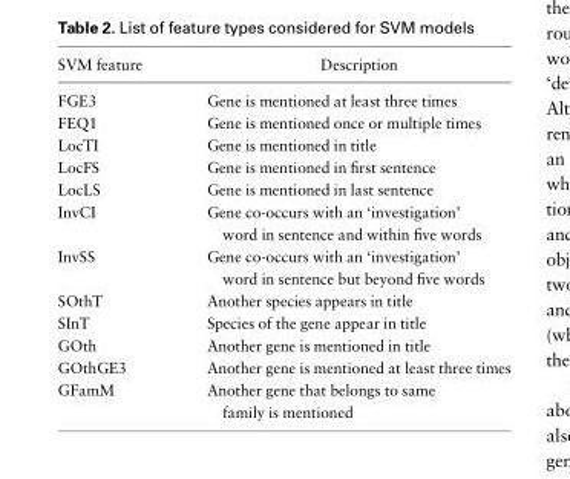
<table><thead><tr><td>SVM feature</td><td>Description</td></tr></thead><tbody><tr><td>FGE3</td><td>Gene is mentioned at least three times</td></tr><tr><td>FEQ1</td><td>Gene is mentioned once or multiple times</td></tr><tr><td>LocTI</td><td>Gene is mentioned in title</td></tr><tr><td>LocFS</td><td>Gene is mentioned in first sentence</td></tr><tr><td>LocLS</td><td>Gene is mentioned in last sentence</td></tr><tr><td>InvCI</td><td>Gene co-occurs with an ‘investigation’ word in sentence and within five words</td></tr><tr><td>InvSS</td><td>Gene co-occurs with an ‘investigation’ word in sentence but beyond five words</td></tr><tr><td>SOthT</td><td>Another species appears in title</td></tr><tr><td>SInT</td><td>Species of the gene appear in title</td></tr><tr><td>GOth</td><td>Another gene is mentioned in title</td></tr><tr><td>GOthGE3</td><td>Another gene is mentioned at least three times</td></tr><tr><td>GFamM</td><td>Another gene that belongs to same family is mentioned</td></tr></tbody></table>